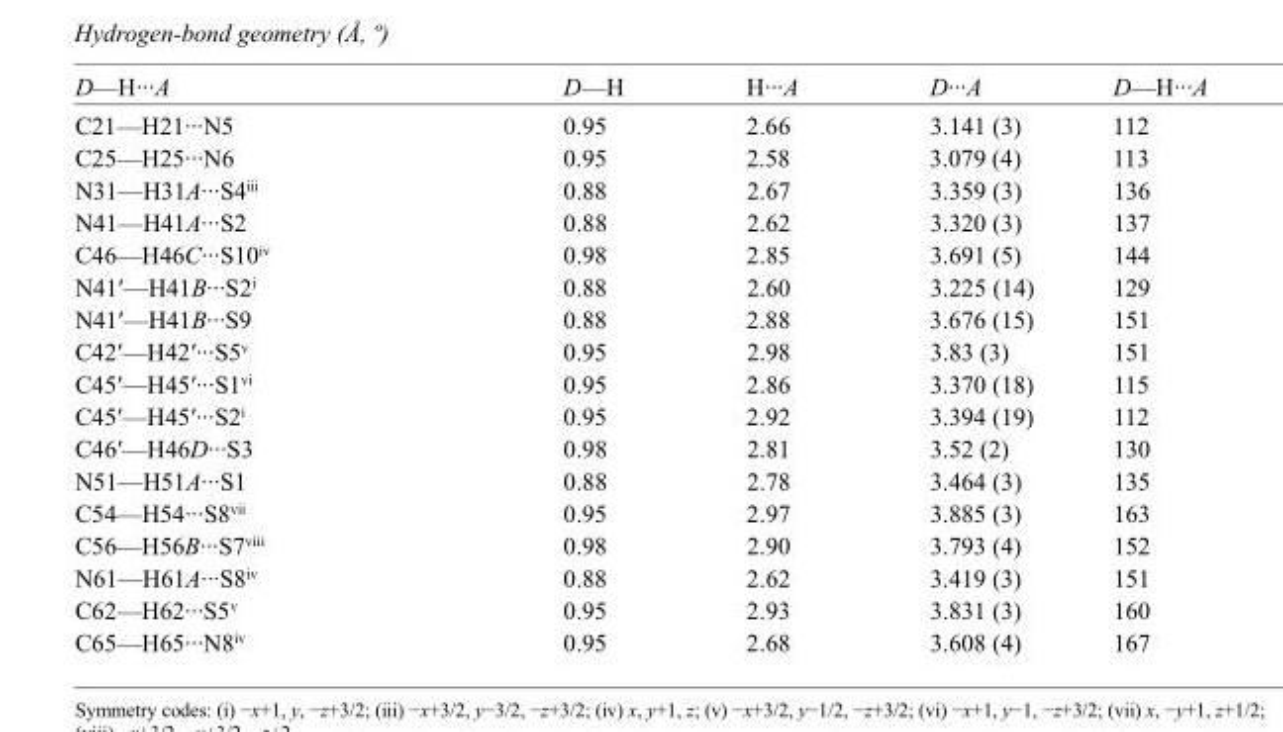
<table><tbody><tr><td>D—H···A</td><td>D—H</td><td>H···A</td><td>D···A</td><td>D—H···A</td></tr><tr><td>C21—H21···N5</td><td>0.95</td><td>2.66</td><td>3.141 (3)</td><td>112</td></tr><tr><td>C25—H25···N6</td><td>0.95</td><td>2.58</td><td>3.079 (4)</td><td>113</td></tr><tr><td>N31—H31A···S4<sup>iii</sup></td><td>0.88</td><td>2.67</td><td>3.359 (3)</td><td>136</td></tr><tr><td>N41—H41A···S2</td><td>0.88</td><td>2.62</td><td>3.320 (3)</td><td>137</td></tr><tr><td>C46—H46C···S10<sup>iv</sup></td><td>0.98</td><td>2.85</td><td>3.691 (5)</td><td>144</td></tr><tr><td>N41′—H41B···S2<sup>i</sup></td><td>0.88</td><td>2.60</td><td>3.225 (14)</td><td>129</td></tr><tr><td>N41′—H41B···S9</td><td>0.88</td><td>2.88</td><td>3.676 (15)</td><td>151</td></tr><tr><td>C42′—H42′···S5<sup>v</sup></td><td>0.95</td><td>2.98</td><td>3.83 (3)</td><td>151</td></tr><tr><td>C45′—H45′···S1<sup>vi</sup></td><td>0.95</td><td>2.86</td><td>3.370 (18)</td><td>115</td></tr><tr><td>C45′—H45′···S2<sup>i</sup></td><td>0.95</td><td>2.92</td><td>3.394 (19)</td><td>112</td></tr><tr><td>C46′—H46D···S3</td><td>0.98</td><td>2.81</td><td>3.52 (2)</td><td>130</td></tr><tr><td>N51—H51A···S1</td><td>0.88</td><td>2.78</td><td>3.464 (3)</td><td>135</td></tr><tr><td>C54—H54···S8<sup>vii</sup></td><td>0.95</td><td>2.97</td><td>3.885 (3)</td><td>163</td></tr><tr><td>C56—H56B···S7<sup>viii</sup></td><td>0.98</td><td>2.90</td><td>3.793 (4)</td><td>152</td></tr><tr><td>N61—H61A···S8<sup>iv</sup></td><td>0.88</td><td>2.62</td><td>3.419 (3)</td><td>151</td></tr><tr><td>C62—H62···S5<sup>v</sup></td><td>0.95</td><td>2.93</td><td>3.831 (3)</td><td>160</td></tr><tr><td>C65—H65···N8<sup>iv</sup></td><td>0.95</td><td>2.68</td><td>3.608 (4)</td><td>167</td></tr></tbody></table>